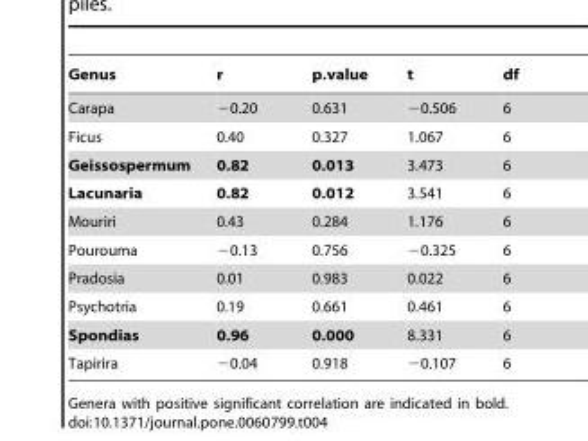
<table><thead><tr><td>Genus</td><td>r</td><td>p.value</td><td>t</td><td>df</td></tr></thead><tbody><tr><td>Carapa</td><td>−0.20</td><td>0.631</td><td>−0.506</td><td>6</td></tr><tr><td>Ficus</td><td>0.40</td><td>0.327</td><td>1.067</td><td>6</td></tr><tr><td>Geissospermum</td><td>0.82</td><td>0.013</td><td>3.473</td><td>6</td></tr><tr><td>Lacunaria</td><td>0.82</td><td>0.012</td><td>3.541</td><td>6</td></tr><tr><td>Mouriri</td><td>0.43</td><td>0.284</td><td>1.176</td><td>6</td></tr><tr><td>Pourouma</td><td>−0.13</td><td>0.756</td><td>−0.325</td><td>6</td></tr><tr><td>Pradosia</td><td>0.01</td><td>0.983</td><td>0.022</td><td>6</td></tr><tr><td>Psychotria</td><td>0.19</td><td>0.661</td><td>0.461</td><td>6</td></tr><tr><td>Spondias</td><td>0.96</td><td>0.000</td><td>8.331</td><td>6</td></tr><tr><td>Tapirira</td><td>−0.04</td><td>0.918</td><td>−0.107</td><td>6</td></tr></tbody></table>